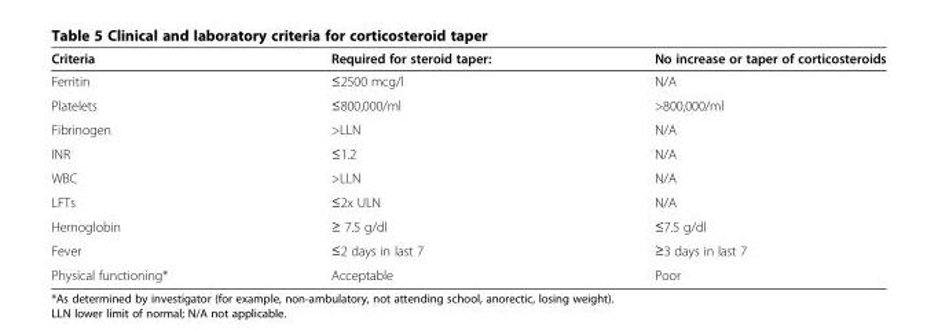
<table><thead><tr><td>Criteria</td><td>Required for steroid taper:</td><td>No increase or taper of corticosteroids</td></tr></thead><tbody><tr><td>Ferritin</td><td>≤2500 mcg/l</td><td>N/A</td></tr><tr><td>Platelets</td><td>≤800,000/ml</td><td>&gt;800,000/ml</td></tr><tr><td>Fibrinogen</td><td>&gt;LLN</td><td>N/A</td></tr><tr><td>INR</td><td>≤1.2</td><td>N/A</td></tr><tr><td>WBC</td><td>&gt;LLN</td><td>N/A</td></tr><tr><td>LFTs</td><td>≤2x ULN</td><td>N/A</td></tr><tr><td>Hemoglobin</td><td>≥ 7.5 g/dl</td><td>≤7.5 g/dl</td></tr><tr><td>Fever</td><td>≤2 days in last 7</td><td>≥3 days in last 7</td></tr><tr><td>Physical functioning*</td><td>Acceptable</td><td>Poor</td></tr></tbody></table>